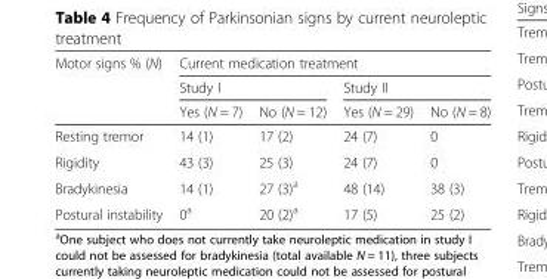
<table><thead><tr><td rowspan="3">Motor signs % (N)</td><td colspan="4">Current medication treatment</td></tr><tr><td colspan="2">Study I</td><td colspan="2">Study II</td></tr><tr><td>Yes (N = 7)</td><td>No (N = 12)</td><td>Yes (N = 29)</td><td>No (N = 8)</td></tr></thead><tbody><tr><td>Resting tremor</td><td>14 (1)</td><td>17 (2)</td><td>24 (7)</td><td>0</td></tr><tr><td>Rigidity</td><td>43 (3)</td><td>25 (3)</td><td>24 (7)</td><td>0</td></tr><tr><td>Bradykinesia</td><td>14 (1)</td><td>27 (3)<sup>a</sup></td><td>48 (14)</td><td>38 (3)</td></tr><tr><td>Postural instability</td><td>0<sup>a</sup></td><td>20 (2)<sup>a</sup></td><td>17 (5)</td><td>25 (2)</td></tr></tbody></table>